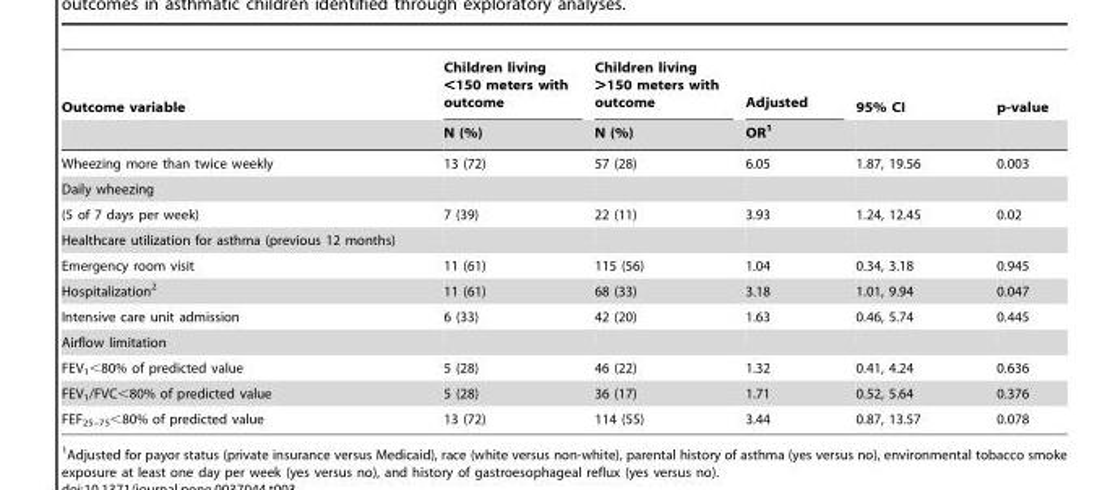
<table><thead><tr><td rowspan="2">Outcome variable</td><td rowspan="2">Children living &lt;150 meters with outcome N (%)</td><td rowspan="2">Children living &gt;150 meters with outcome N (%)</td><td rowspan="2">Adjusted OR<sup>1</sup></td><td rowspan="2">95% CI</td><td rowspan="2">p-value</td></tr><tr></tr></thead><tbody><tr><td>Wheezing more than twice weekly</td><td>13 (72)</td><td>57 (28)</td><td>6.05</td><td>1.87, 19.56</td><td>0.003</td></tr><tr><td colspan="6">Daily wheezing</td></tr><tr><td>(5 of 7 days per week)</td><td>7 (39)</td><td>22 (11)</td><td>3.93</td><td>1.24, 12.45</td><td>0.02</td></tr><tr><td colspan="6">Healthcare utilization for asthma (previous 12 months)</td></tr><tr><td>Emergency room visit</td><td>11 (61)</td><td>115 (56)</td><td>1.04</td><td>0.34, 3.18</td><td>0.945</td></tr><tr><td>Hospitalization<sup>2</sup></td><td>11 (61)</td><td>68 (33)</td><td>3.18</td><td>1.01, 9.94</td><td>0.047</td></tr><tr><td>Intensive care unit admission</td><td>6 (33)</td><td>42 (20)</td><td>1.63</td><td>0.46, 5.74</td><td>0.445</td></tr><tr><td colspan="6">Airflow limitation</td></tr><tr><td>FEV<sub>1</sub>&lt;80% of predicted value</td><td>5 (28)</td><td>46 (22)</td><td>1.32</td><td>0.41, 4.24</td><td>0.636</td></tr><tr><td>FEV<sub>1</sub>/FVC&lt;80% of predicted value</td><td>5 (28)</td><td>36 (17)</td><td>1.71</td><td>0.52, 5.64</td><td>0.376</td></tr><tr><td>FEF<sub>25–75</sub>&lt;80% of predicted value</td><td>13 (72)</td><td>114 (55)</td><td>3.44</td><td>0.87, 13.57</td><td>0.078</td></tr></tbody></table>